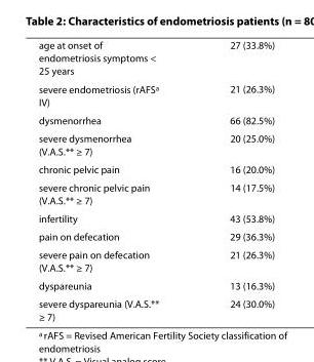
<table><tbody><tr><td>age at onset of endometriosis symptoms &lt; 25 years</td><td>27 (33.8%)</td></tr><tr><td>severe endometriosis (rAFS<sup>a</sup> IV)</td><td>21 (26.3%)</td></tr><tr><td>dysmenorrhea</td><td>66 (82.5%)</td></tr><tr><td>severe dysmenorrhea (V.A.S.** ≥ 7)</td><td>20 (25.0%)</td></tr><tr><td>chronic pelvic pain</td><td>16 (20.0%)</td></tr><tr><td>severe chronic pelvic pain (V.A.S.** ≥ 7)</td><td>14 (17.5%)</td></tr><tr><td>infertility</td><td>43 (53.8%)</td></tr><tr><td>pain on defecation</td><td>29 (36.3%)</td></tr><tr><td>severe pain on defecation (V.A.S.** ≥ 7)</td><td>21 (26.3%)</td></tr><tr><td>dyspareunia</td><td>13 (16.3%)</td></tr><tr><td>severe dyspareunia (V.A.S.** ≥ 7)</td><td>24 (30.0%)</td></tr></tbody></table>